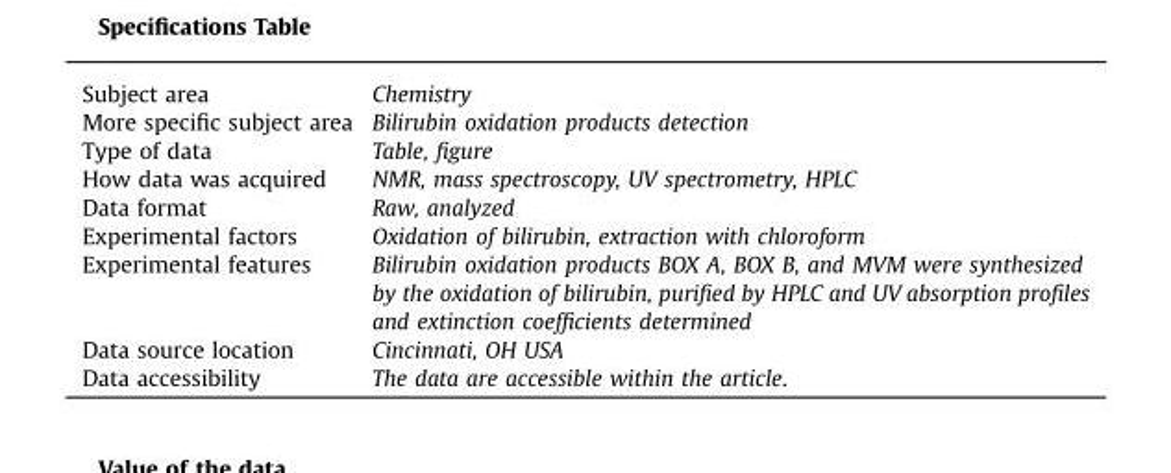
<table><tbody><tr><td>Subject area</td><td>Chemistry</td></tr><tr><td>More specific subject area</td><td>Bilirubin oxidation products detection</td></tr><tr><td>Type of data</td><td>Table, figure</td></tr><tr><td>How data was acquired</td><td>NMR, mass spectroscopy, UV spectrometry, HPLC</td></tr><tr><td>Data format</td><td>Raw, analyzed</td></tr><tr><td>Experimental factors</td><td>Oxidation of bilirubin, extraction with chloroform</td></tr><tr><td>Experimental features</td><td>Bilirubin oxidation products BOX A, BOX B, and MVM were synthesized by the oxidation of bilirubin, purified by HPLC and UV absorption profiles and extinction coefficients determined</td></tr><tr><td>Data source location</td><td>Cincinnati, OH USA</td></tr><tr><td>Data accessibility</td><td>The data are accessible within the article.</td></tr></tbody></table>